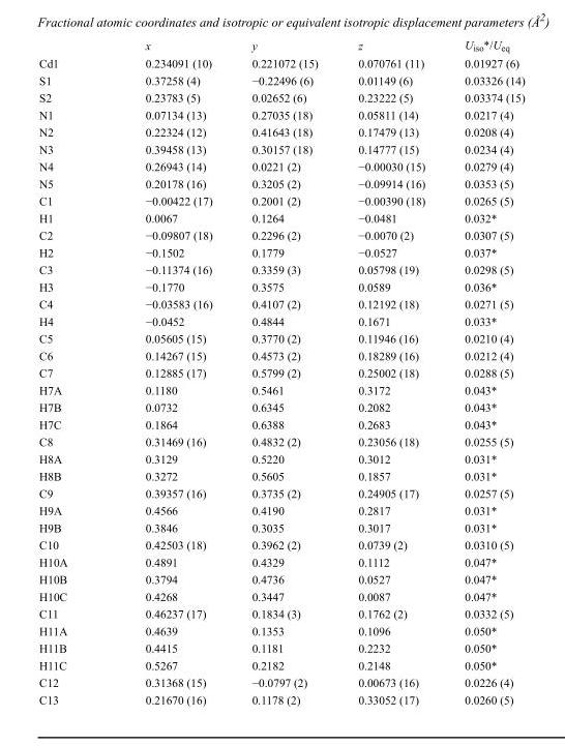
<table><thead><tr><td></td><td>x</td><td>y</td><td>z</td><td>U<sub>iso</sub>*/U<sub>eq</sub></td></tr></thead><tbody><tr><td>Cd1</td><td>0.234091 (10)</td><td>0.221072 (15)</td><td>0.070761 (11)</td><td>0.01927 (6)</td></tr><tr><td>S1</td><td>0.37258 (4)</td><td>−0.22496 (6)</td><td>0.01149 (6)</td><td>0.03326 (14)</td></tr><tr><td>S2</td><td>0.23783 (5)</td><td>0.02652 (6)</td><td>0.23222 (5)</td><td>0.03374 (15)</td></tr><tr><td>N1</td><td>0.07134 (13)</td><td>0.27035 (18)</td><td>0.05811 (14)</td><td>0.0217 (4)</td></tr><tr><td>N2</td><td>0.22324 (12)</td><td>0.41643 (18)</td><td>0.17479 (13)</td><td>0.0208 (4)</td></tr><tr><td>N3</td><td>0.39458 (13)</td><td>0.30157 (18)</td><td>0.14777 (15)</td><td>0.0234 (4)</td></tr><tr><td>N4</td><td>0.26943 (14)</td><td>0.0221 (2)</td><td>−0.00030 (15)</td><td>0.0279 (4)</td></tr><tr><td>N5</td><td>0.20178 (16)</td><td>0.3205 (2)</td><td>−0.09914 (16)</td><td>0.0353 (5)</td></tr><tr><td>C1</td><td>−0.00422 (17)</td><td>0.2001 (2)</td><td>−0.00390 (18)</td><td>0.0265 (5)</td></tr><tr><td>H1</td><td>0.0067</td><td>0.1264</td><td>−0.0481</td><td>0.032*</td></tr><tr><td>C2</td><td>−0.09807 (18)</td><td>0.2296 (2)</td><td>−0.0070 (2)</td><td>0.0307 (5)</td></tr><tr><td>H2</td><td>−0.1502</td><td>0.1779</td><td>−0.0527</td><td>0.037*</td></tr><tr><td>C3</td><td>−0.11374 (16)</td><td>0.3359 (3)</td><td>0.05798 (19)</td><td>0.0298 (5)</td></tr><tr><td>H3</td><td>−0.1770</td><td>0.3575</td><td>0.0589</td><td>0.036*</td></tr><tr><td>C4</td><td>−0.03583 (16)</td><td>0.4107 (2)</td><td>0.12192 (18)</td><td>0.0271 (5)</td></tr><tr><td>H4</td><td>−0.0452</td><td>0.4844</td><td>0.1671</td><td>0.033*</td></tr><tr><td>C5</td><td>0.05605 (15)</td><td>0.3770 (2)</td><td>0.11946 (16)</td><td>0.0210 (4)</td></tr><tr><td>C6</td><td>0.14267 (15)</td><td>0.4573 (2)</td><td>0.18289 (16)</td><td>0.0212 (4)</td></tr><tr><td>C7</td><td>0.12885 (17)</td><td>0.5799 (2)</td><td>0.25002 (18)</td><td>0.0288 (5)</td></tr><tr><td>H7A</td><td>0.1180</td><td>0.5461</td><td>0.3172</td><td>0.043*</td></tr><tr><td>H7B</td><td>0.0732</td><td>0.6345</td><td>0.2082</td><td>0.043*</td></tr><tr><td>H7C</td><td>0.1864</td><td>0.6388</td><td>0.2683</td><td>0.043*</td></tr><tr><td>C8</td><td>0.31469 (16)</td><td>0.4832 (2)</td><td>0.23056 (18)</td><td>0.0255 (5)</td></tr><tr><td>H8A</td><td>0.3129</td><td>0.5220</td><td>0.3012</td><td>0.031*</td></tr><tr><td>H8B</td><td>0.3272</td><td>0.5605</td><td>0.1857</td><td>0.031*</td></tr><tr><td>C9</td><td>0.39357 (16)</td><td>0.3735 (2)</td><td>0.24905 (17)</td><td>0.0257 (5)</td></tr><tr><td>H9A</td><td>0.4566</td><td>0.4190</td><td>0.2817</td><td>0.031*</td></tr><tr><td>H9B</td><td>0.3846</td><td>0.3035</td><td>0.3017</td><td>0.031*</td></tr><tr><td>C10</td><td>0.42503 (18)</td><td>0.3962 (2)</td><td>0.0739 (2)</td><td>0.0310 (5)</td></tr><tr><td>H10A</td><td>0.4891</td><td>0.4329</td><td>0.1112</td><td>0.047*</td></tr><tr><td>H10B</td><td>0.3794</td><td>0.4736</td><td>0.0527</td><td>0.047*</td></tr><tr><td>H10C</td><td>0.4268</td><td>0.3447</td><td>0.0087</td><td>0.047*</td></tr><tr><td>C11</td><td>0.46237 (17)</td><td>0.1834 (3)</td><td>0.1762 (2)</td><td>0.0332 (5)</td></tr><tr><td>H11A</td><td>0.4639</td><td>0.1353</td><td>0.1096</td><td>0.050*</td></tr><tr><td>H11B</td><td>0.4415</td><td>0.1181</td><td>0.2232</td><td>0.050*</td></tr><tr><td>H11C</td><td>0.5267</td><td>0.2182</td><td>0.2148</td><td>0.050*</td></tr><tr><td>C12</td><td>0.31368 (15)</td><td>−0.0797 (2)</td><td>0.00673 (16)</td><td>0.0226 (4)</td></tr><tr><td>C13</td><td>0.21670 (16)</td><td>0.1178 (2)</td><td>0.33052 (17)</td><td>0.0260 (5)</td></tr></tbody></table>